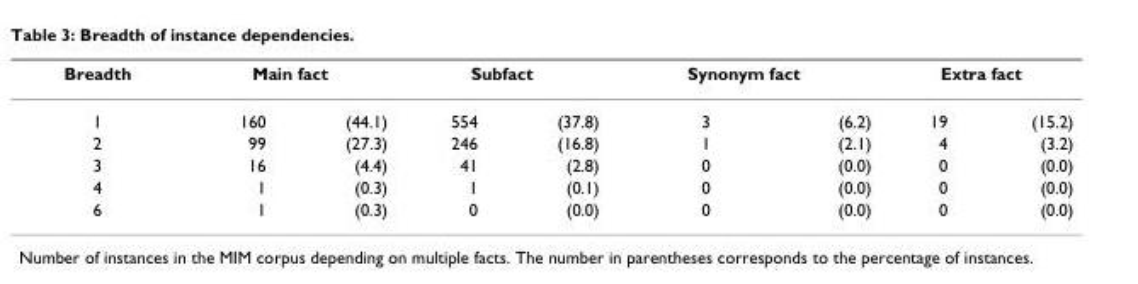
<table><thead><tr><td rowspan="2">Breadth 1</td><td colspan="2">Main fact</td><td colspan="2">Subfact</td><td colspan="2">Synonym fact</td><td colspan="2">Extra fact</td></tr><tr><td>160</td><td>(44.1)</td><td>554</td><td>(37.8)</td><td>3</td><td>(6.2)</td><td>19</td><td>(15.2)</td></tr></thead><tbody><tr><td>2</td><td>99</td><td>(27.3)</td><td>246</td><td>(16.8)</td><td>1</td><td>(2.1)</td><td>4</td><td>(3.2)</td></tr><tr><td>3</td><td>16</td><td>(4.4)</td><td>41</td><td>(2.8)</td><td>0</td><td>(0.0)</td><td>0</td><td>(0.0)</td></tr><tr><td>4</td><td>1</td><td>(0.3)</td><td>1</td><td>(0.1)</td><td>0</td><td>(0.0)</td><td>0</td><td>(0.0)</td></tr><tr><td>6</td><td>1</td><td>(0.3)</td><td>0</td><td>(0.0)</td><td>0</td><td>(0.0)</td><td>0</td><td>(0.0)</td></tr></tbody></table>